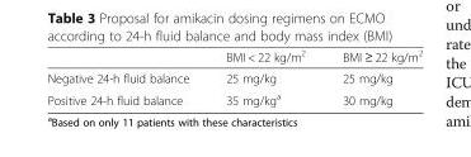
<table><thead><tr><td></td><td>BMI &lt; 22 kg/m<sup>2</sup></td><td>BMI ≥ 22 kg/m<sup>2</sup></td></tr></thead><tbody><tr><td>Negative 24-h fluid balance</td><td>25 mg/kg</td><td>25 mg/kg</td></tr><tr><td>Positive 24-h fluid balance</td><td>35 mg/kg<sup>a</sup></td><td>30 mg/kg</td></tr></tbody></table>